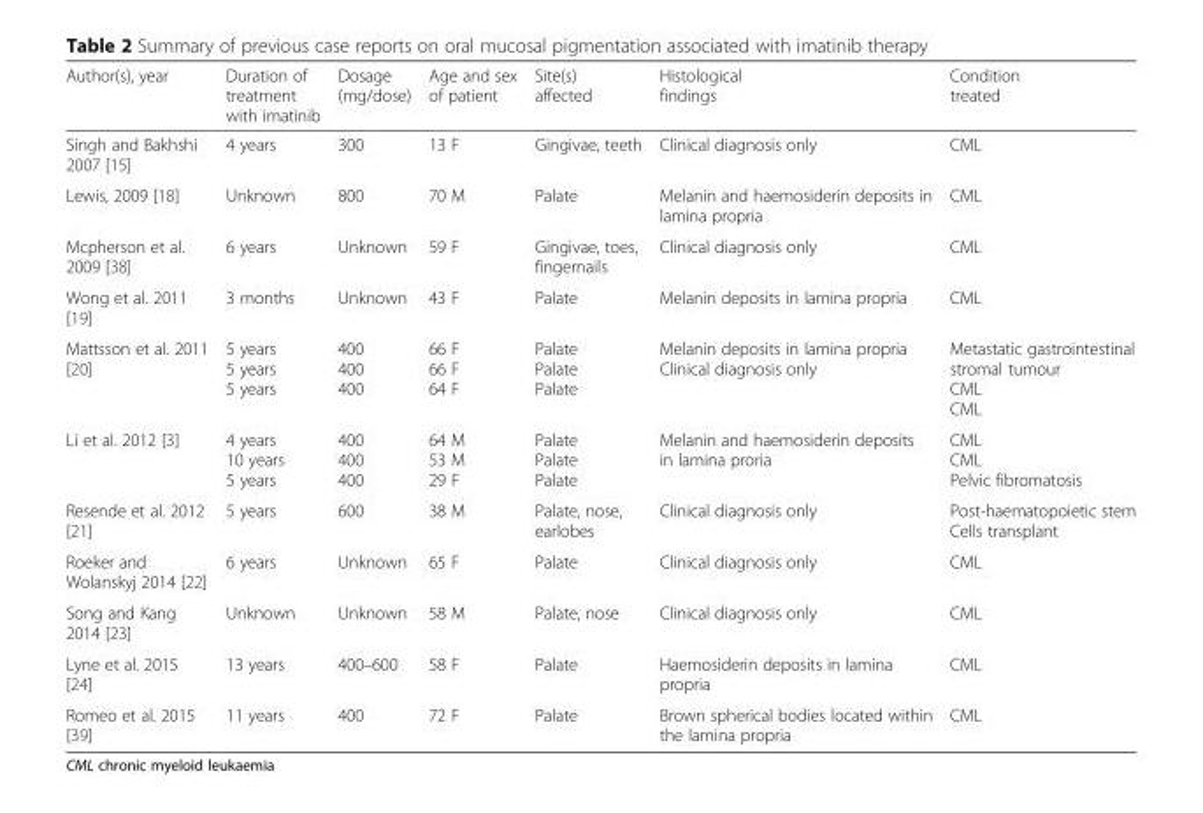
<table><thead><tr><td>Author(s), year</td><td>Duration of treatment with imatinib</td><td>Dosage (mg/dose)</td><td>Age and sex of patient</td><td>Site(s) affected</td><td>Histological findings</td><td>Condition treated</td></tr></thead><tbody><tr><td>Singh and Bakhshi 2007 [15]</td><td>4 years</td><td>300</td><td>13 F</td><td>Gingivae, teeth</td><td>Clinical diagnosis only</td><td>CML</td></tr><tr><td>Lewis, 2009 [18]</td><td>Unknown</td><td>800</td><td>70 M</td><td>Palate</td><td>Melanin and haemosiderin deposits in lamina propria</td><td>CML</td></tr><tr><td>Mcpherson et al. 2009 [38]</td><td>6 years</td><td>Unknown</td><td>59 F</td><td>Gingivae, toes, fingernails</td><td>Clinical diagnosis only</td><td>CML</td></tr><tr><td>Wong et al. 2011 [19]</td><td>3 months</td><td>Unknown</td><td>43 F</td><td>Palate</td><td>Melanin deposits in lamina propria</td><td>CML</td></tr><tr><td>Mattsson et al. 2011 [20]</td><td>5 years 5 years 5 years</td><td>400 400 400</td><td>66 F 66 F 64 F</td><td>Palate Palate Palate</td><td>Melanin deposits in lamina propria Clinical diagnosis only</td><td>Metastatic gastrointestinal stromal tumour CML CML</td></tr><tr><td>Li et al. 2012 [3]</td><td>4 years 10 years 5 years</td><td>400 400 400</td><td>64 M 53 M 29 F</td><td>Palate Palate Palate</td><td>Melanin and haemosiderin deposits in lamina proria</td><td>CML CML Pelvic fibromatosis</td></tr><tr><td>Resende et al. 2012 [21]</td><td>5 years</td><td>600</td><td>38 M</td><td>Palate, nose, earlobes</td><td>Clinical diagnosis only</td><td>Post-haematopoietic stem Cells transplant</td></tr><tr><td>Roeker and Wolanskyj 2014 [22]</td><td>6 years</td><td>Unknown</td><td>65 F</td><td>Palate</td><td>Clinical diagnosis only</td><td>CML</td></tr><tr><td>Song and Kang 2014 [23]</td><td>Unknown</td><td>Unknown</td><td>58 M</td><td>Palate, nose</td><td>Clinical diagnosis only</td><td>CML</td></tr><tr><td>Lyne et al. 2015 [24]</td><td>13 years</td><td>400–600</td><td>58 F</td><td>Palate</td><td>Haemosiderin deposits in lamina propria</td><td>CML</td></tr><tr><td>Romeo et al. 2015 [39]</td><td>11 years</td><td>400</td><td>72 F</td><td>Palate</td><td>Brown spherical bodies located within the lamina propria</td><td>CML</td></tr></tbody></table>